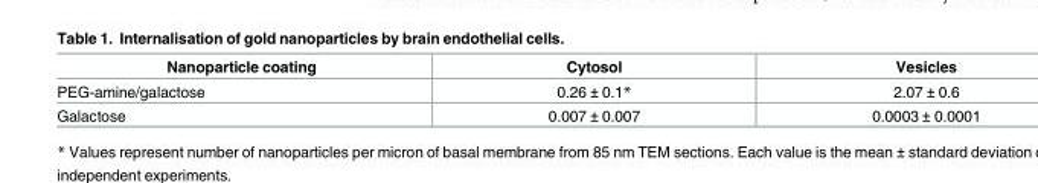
<table><thead><tr><td>Nanoparticle coating</td><td>Cytosol</td><td>Vesicles</td></tr></thead><tbody><tr><td>PEG-amine/galactose</td><td>0.26 ± 0.1*</td><td>2.07 ± 0.6</td></tr><tr><td>Galactose</td><td>0.007 ± 0.007</td><td>0.0003 ± 0.0001</td></tr></tbody></table>